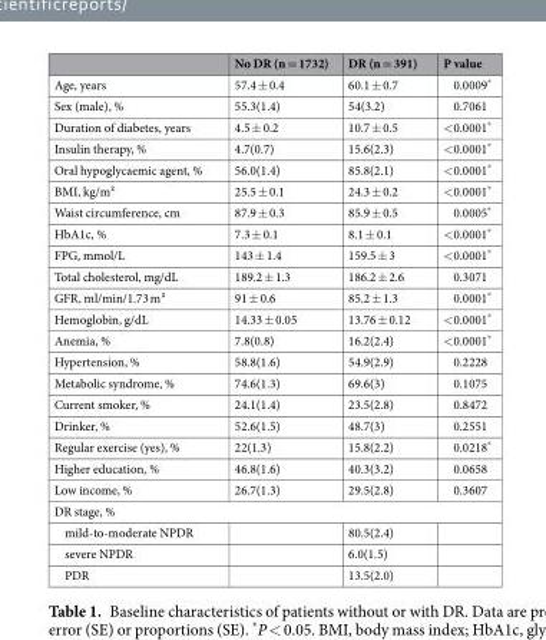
<table><thead><tr><td></td><td>No DR (n = 1732)</td><td>DR (n = 391)</td><td>P value</td></tr></thead><tbody><tr><td>Age, years</td><td>57.4 ± 0.4</td><td>60.1 ± 0.7</td><td>0.0009*</td></tr><tr><td>Sex (male), %</td><td>55.3(1.4)</td><td>54(3.2)</td><td>0.7061</td></tr><tr><td>Duration of diabetes, years</td><td>4.5 ± 0.2</td><td>10.7 ± 0.5</td><td>&lt;0.0001*</td></tr><tr><td>Insulin therapy, %</td><td>4.7(0.7)</td><td>15.6(2.3)</td><td>&lt;0.0001*</td></tr><tr><td>Oral hypoglycaemic agent, %</td><td>56.0(1.4)</td><td>85.8(2.1)</td><td>&lt;0.0001*</td></tr><tr><td>BMI, kg/m²</td><td>25.5 ± 0.1</td><td>24.3 ± 0.2</td><td>&lt;0.0001*</td></tr><tr><td>Waist circumference, cm</td><td>87.9 ± 0.3</td><td>85.9 ± 0.5</td><td>0.0005*</td></tr><tr><td>HbA1c, %</td><td>7.3 ± 0.1</td><td>8.1 ± 0.1</td><td>&lt;0.0001*</td></tr><tr><td>FPG, mmol/L</td><td>143 ± 1.4</td><td>159.5 ± 3</td><td>&lt;0.0001*</td></tr><tr><td>Total cholesterol, mg/dL</td><td>189.2 ± 1.3</td><td>186.2 ± 2.6</td><td>0.3071</td></tr><tr><td>GFR, ml/min/1.73 m²</td><td>91 ± 0.6</td><td>85.2 ± 1.3</td><td>0.0001*</td></tr><tr><td>Hemoglobin, g/dL</td><td>14.33 ± 0.05</td><td>13.76 ± 0.12</td><td>&lt;0.0001*</td></tr><tr><td>Anemia, %</td><td>7.8(0.8)</td><td>16.2(2.4)</td><td>&lt;0.0001*</td></tr><tr><td>Hypertension, %</td><td>58.8(1.6)</td><td>54.9(2.9)</td><td>0.2228</td></tr><tr><td>Metabolic syndrome, %</td><td>74.6(1.3)</td><td>69.6(3)</td><td>0.1075</td></tr><tr><td>Current smoker, %</td><td>24.1(1.4)</td><td>23.5(2.8)</td><td>0.8472</td></tr><tr><td>Drinker, %</td><td>52.6(1.5)</td><td>48.7(3)</td><td>0.2551</td></tr><tr><td>Regular exercise (yes), %</td><td>22(1.3)</td><td>15.8(2.2)</td><td>0.0218*</td></tr><tr><td>Higher education, %</td><td>46.8(1.6)</td><td>40.3(3.2)</td><td>0.0658</td></tr><tr><td>Low income, %</td><td>26.7(1.3)</td><td>29.5(2.8)</td><td>0.3607</td></tr><tr><td colspan="4">DR stage, %</td></tr><tr><td>mild-to-moderate NPDR</td><td></td><td>80.5(2.4)</td><td></td></tr><tr><td>severe NPDR</td><td></td><td>6.0(1.5)</td><td></td></tr><tr><td>PDR</td><td></td><td>13.5(2.0)</td><td></td></tr></tbody></table>